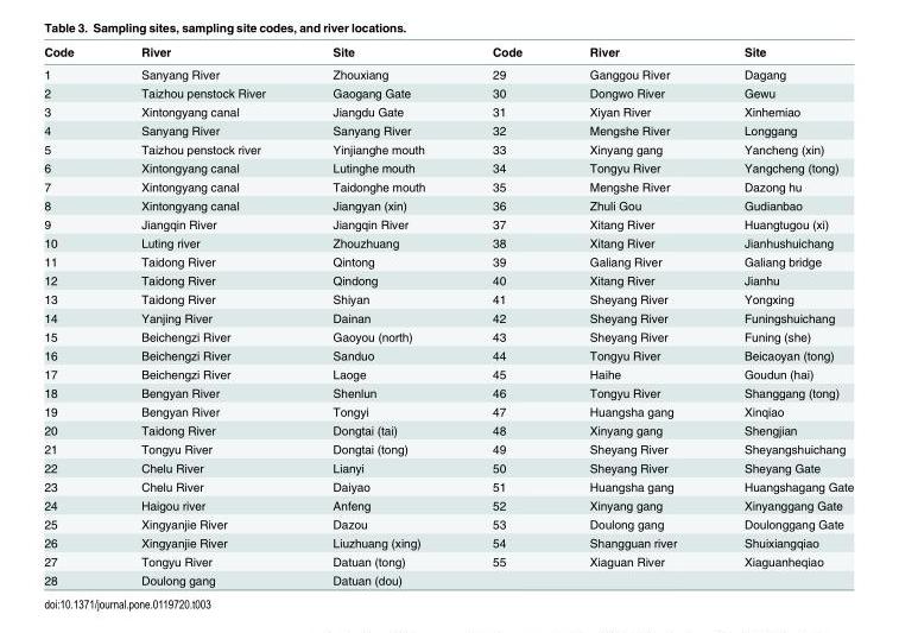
<table><thead><tr><td>Code</td><td>River</td><td>Site</td><td>Code</td><td>River</td><td>Site</td></tr></thead><tbody><tr><td>1</td><td>Sanyang River</td><td>Zhouxiang</td><td>29</td><td>Ganggou River</td><td>Dagang</td></tr><tr><td>2</td><td>Taizhou penstock River</td><td>Gaogang Gate</td><td>30</td><td>Dongwo River</td><td>Gewu</td></tr><tr><td>3</td><td>Xintongyang canal</td><td>Jiangdu Gate</td><td>31</td><td>Xiyan River</td><td>Xinhemiao</td></tr><tr><td>4</td><td>Sanyang River</td><td>Sanyang River</td><td>32</td><td>Mengshe River</td><td>Longgang</td></tr><tr><td>5</td><td>Taizhou penstock river</td><td>Yinjianghe mouth</td><td>33</td><td>Xinyang gang</td><td>Yancheng (xin)</td></tr><tr><td>6</td><td>Xintongyang canal</td><td>Lutinghe mouth</td><td>34</td><td>Tongyu River</td><td>Yangcheng (tong)</td></tr><tr><td>7</td><td>Xintongyang canal</td><td>Taidonghe mouth</td><td>35</td><td>Mengshe River</td><td>Dazong hu</td></tr><tr><td>8</td><td>Xintongyang canal</td><td>Jiangyan (xin)</td><td>36</td><td>Zhuli Gou</td><td>Gudianbao</td></tr><tr><td>9</td><td>Jiangqin River</td><td>Jiangqin River</td><td>37</td><td>Xitang River</td><td>Huangtugou (xi)</td></tr><tr><td>10</td><td>Luting river</td><td>Zhouzhuang</td><td>38</td><td>Xitang River</td><td>Jianhushuichang</td></tr><tr><td>11</td><td>Taidong River</td><td>Qintong</td><td>39</td><td>Galiang River</td><td>Galiang bridge</td></tr><tr><td>12</td><td>Taidong River</td><td>Qindong</td><td>40</td><td>Xitang River</td><td>Jianhu</td></tr><tr><td>13</td><td>Taidong River</td><td>Shiyan</td><td>41</td><td>Sheyang River</td><td>Yongxing</td></tr><tr><td>14</td><td>Yanjing River</td><td>Dainan</td><td>42</td><td>Sheyang River</td><td>Funingshuichang</td></tr><tr><td>15</td><td>Beichengzi River</td><td>Gaoyou (north)</td><td>43</td><td>Sheyang River</td><td>Funing (she)</td></tr><tr><td>16</td><td>Beichengzi River</td><td>Sanduo</td><td>44</td><td>Tongyu River</td><td>Beicaoyan (tong)</td></tr><tr><td>17</td><td>Beichengzi River</td><td>Laoge</td><td>45</td><td>Haihe</td><td>Goudun (hai)</td></tr><tr><td>18</td><td>Bengyan River</td><td>Shenlun</td><td>46</td><td>Tongyu River</td><td>Shanggang (tong)</td></tr><tr><td>19</td><td>Bengyan River</td><td>Tongyi</td><td>47</td><td>Huangsha gang</td><td>Xinqiao</td></tr><tr><td>20</td><td>Taidong River</td><td>Dongtai (tai)</td><td>48</td><td>Xinyang gang</td><td>Shengjian</td></tr><tr><td>21</td><td>Tongyu River</td><td>Dongtai (tong)</td><td>49</td><td>Sheyang River</td><td>Sheyangshuichang</td></tr><tr><td>22</td><td>Chelu River</td><td>Lianyi</td><td>50</td><td>Sheyang River</td><td>Sheyang Gate</td></tr><tr><td>23</td><td>Chelu River</td><td>Daiyao</td><td>51</td><td>Huangsha gang</td><td>Huangshagang Gate</td></tr><tr><td>24</td><td>Haigou river</td><td>Anfeng</td><td>52</td><td>Xinyang gang</td><td>Xinyanggang Gate</td></tr><tr><td>25</td><td>Xingyanjie River</td><td>Dazou</td><td>53</td><td>Doulong gang</td><td>Doulonggang Gate</td></tr><tr><td>26</td><td>Xingyanjie River</td><td>Liuzhuang (xing)</td><td>54</td><td>Shangguan river</td><td>Shuixiangqiao</td></tr><tr><td>27</td><td>Tongyu River</td><td>Datuan (tong)</td><td>55</td><td>Xiaguan River</td><td>Xiaguanheqiao</td></tr><tr><td>28</td><td>Doulong gang</td><td>Datuan (dou)</td><td></td><td></td><td></td></tr></tbody></table>